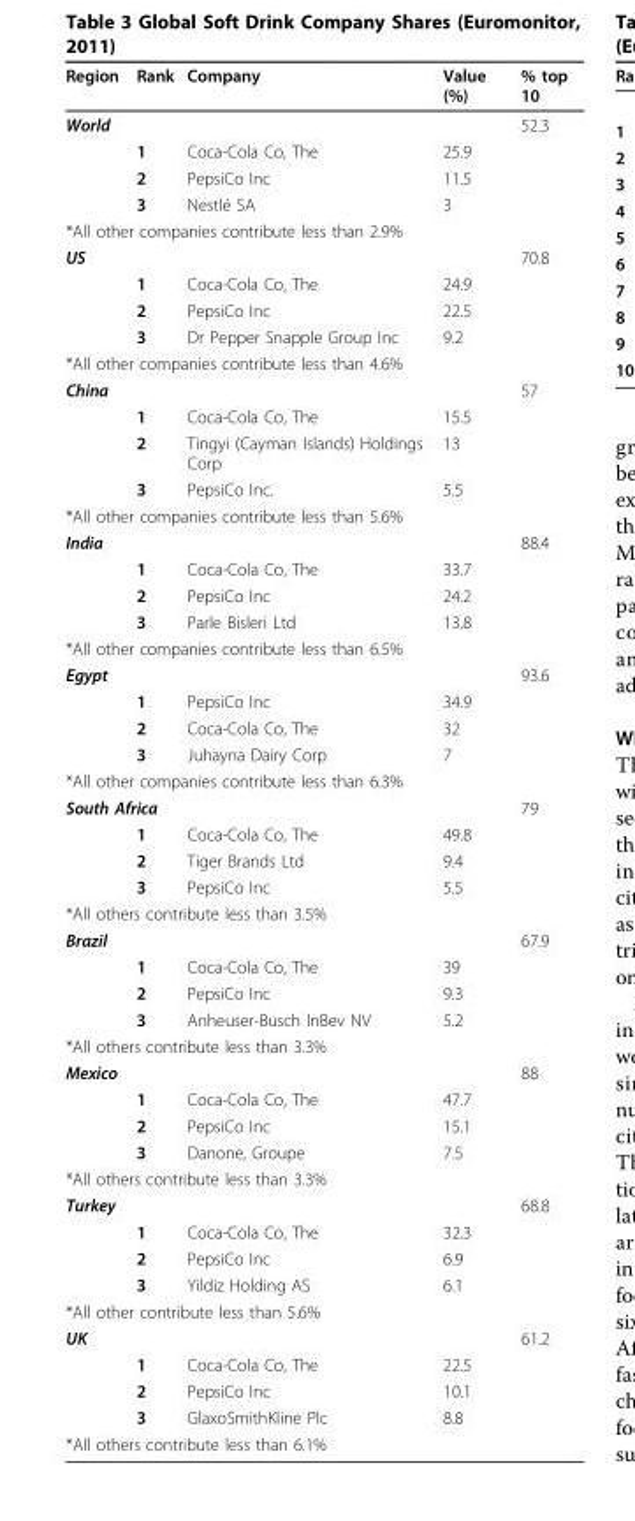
<table><thead><tr><td>Region</td><td>Rank</td><td>Company</td><td>Value (%)</td><td>% top 10</td></tr></thead><tbody><tr><td rowspan="4">World</td><td></td><td></td><td></td><td>52.3</td></tr><tr><td>1</td><td>Coca-Cola Co, The</td><td>25.9</td><td></td></tr><tr><td>2</td><td>PepsiCo Inc</td><td>11.5</td><td></td></tr><tr><td>3</td><td>Nestlé SA</td><td>3</td><td></td></tr><tr><td colspan="5">*All other companies contribute less than 2.9%</td></tr><tr><td rowspan="4">US</td><td></td><td></td><td></td><td>70.8</td></tr><tr><td>1</td><td>Coca-Cola Co, The</td><td>24.9</td><td></td></tr><tr><td>2</td><td>PepsiCo Inc</td><td>22.5</td><td></td></tr><tr><td>3</td><td>Dr Pepper Snapple Group Inc</td><td>9.2</td><td></td></tr><tr><td colspan="5">*All other companies contribute less than 4.6%</td></tr><tr><td rowspan="4">China</td><td></td><td></td><td></td><td>57</td></tr><tr><td>1</td><td>Coca-Cola Co, The</td><td>15.5</td><td></td></tr><tr><td>2</td><td>Tingyi (Cayman Islands) Holdings Corp</td><td>13</td><td></td></tr><tr><td>3</td><td>PepsiCo Inc.</td><td>5.5</td><td></td></tr><tr><td colspan="5">*All other companies contribute less than 5.6%</td></tr><tr><td rowspan="4">India</td><td></td><td></td><td></td><td>88.4</td></tr><tr><td>1</td><td>Coca-Cola Co, The</td><td>33.7</td><td></td></tr><tr><td>2</td><td>PepsiCo Inc</td><td>24.2</td><td></td></tr><tr><td>3</td><td>Parle Bisleri Ltd</td><td>13.8</td><td></td></tr><tr><td colspan="5">*All other companies contribute less than 6.5%</td></tr><tr><td rowspan="4">Egypt</td><td></td><td></td><td></td><td>93.6</td></tr><tr><td>1</td><td>PepsiCo Inc</td><td>34.9</td><td></td></tr><tr><td>2</td><td>Coca-Cola Co, The</td><td>32</td><td></td></tr><tr><td>3</td><td>Juhayna Dairy Corp</td><td>7</td><td></td></tr><tr><td colspan="5">*All other companies contribute less than 6.3%</td></tr><tr><td colspan="2">South Africa</td><td></td><td></td><td>79</td></tr><tr><td></td><td>1</td><td>Coca-Cola Co, The</td><td>49.8</td><td></td></tr><tr><td></td><td>2</td><td>Tiger Brands Ltd</td><td>9.4</td><td></td></tr><tr><td></td><td>3</td><td>PepsiCo Inc</td><td>5.5</td><td></td></tr><tr><td colspan="5">*All others contribute less than 3.5%</td></tr><tr><td rowspan="4">Brazil</td><td></td><td></td><td></td><td>67.9</td></tr><tr><td>1</td><td>Coca-Cola Co, The</td><td>39</td><td></td></tr><tr><td>2</td><td>PepsiCo Inc</td><td>9.3</td><td></td></tr><tr><td>3</td><td>Anheuser-Busch InBev NV</td><td>5.2</td><td></td></tr><tr><td colspan="5">*All others contribute less than 3.3%</td></tr><tr><td rowspan="4">Mexico</td><td></td><td></td><td></td><td>88</td></tr><tr><td>1</td><td>Coca-Cola Co, The</td><td>47.7</td><td></td></tr><tr><td>2</td><td>PepsiCo Inc</td><td>15.1</td><td></td></tr><tr><td>3</td><td>Danone, Groupe</td><td>7.5</td><td></td></tr><tr><td colspan="5">*All others contribute less than 3.3%</td></tr><tr><td rowspan="4">Turkey</td><td></td><td></td><td></td><td>68.8</td></tr><tr><td>1</td><td>Coca-Cola Co, The</td><td>32.3</td><td></td></tr><tr><td>2</td><td>PepsiCo Inc</td><td>6.9</td><td></td></tr><tr><td>3</td><td>Yildiz Holding AS</td><td>6.1</td><td></td></tr><tr><td colspan="5">*All other contribute less than 5.6%</td></tr><tr><td rowspan="4">UK</td><td></td><td></td><td></td><td>61.2</td></tr><tr><td>1</td><td>Coca-Cola Co, The</td><td>22.5</td><td></td></tr><tr><td>2</td><td>PepsiCo Inc</td><td>10.1</td><td></td></tr><tr><td>3</td><td>GlaxoSmithKline Plc</td><td>8.8</td><td></td></tr><tr><td colspan="5">*All others contribute less than 6.1%</td></tr></tbody></table>